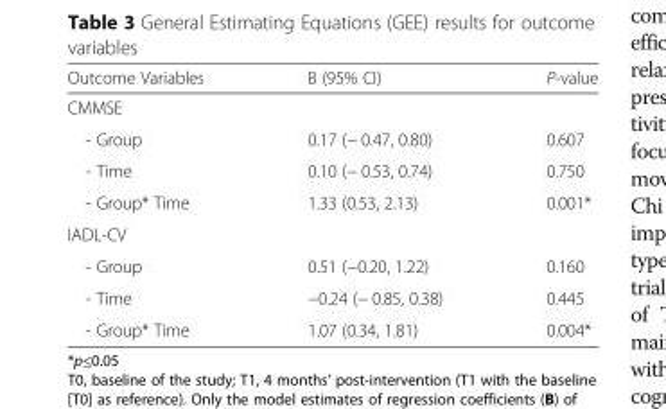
<table><thead><tr><td>Outcome Variables</td><td>B (95% CI)</td><td>P-value</td></tr></thead><tbody><tr><td colspan="3">CMMSE</td></tr><tr><td>- Group</td><td>0.17 (− 0.47, 0.80)</td><td>0.607</td></tr><tr><td>- Time</td><td>0.10 (− 0.53, 0.74)</td><td>0.750</td></tr><tr><td>- Group* Time</td><td>1.33 (0.53, 2.13)</td><td>0.001*</td></tr><tr><td colspan="3">IADL-CV</td></tr><tr><td>- Group</td><td>0.51 (−0.20, 1.22)</td><td>0.160</td></tr><tr><td>- Time</td><td>−0.24 (− 0.85, 0.38)</td><td>0.445</td></tr><tr><td>- Group* Time</td><td>1.07 (0.34, 1.81)</td><td>0.004*</td></tr></tbody></table>